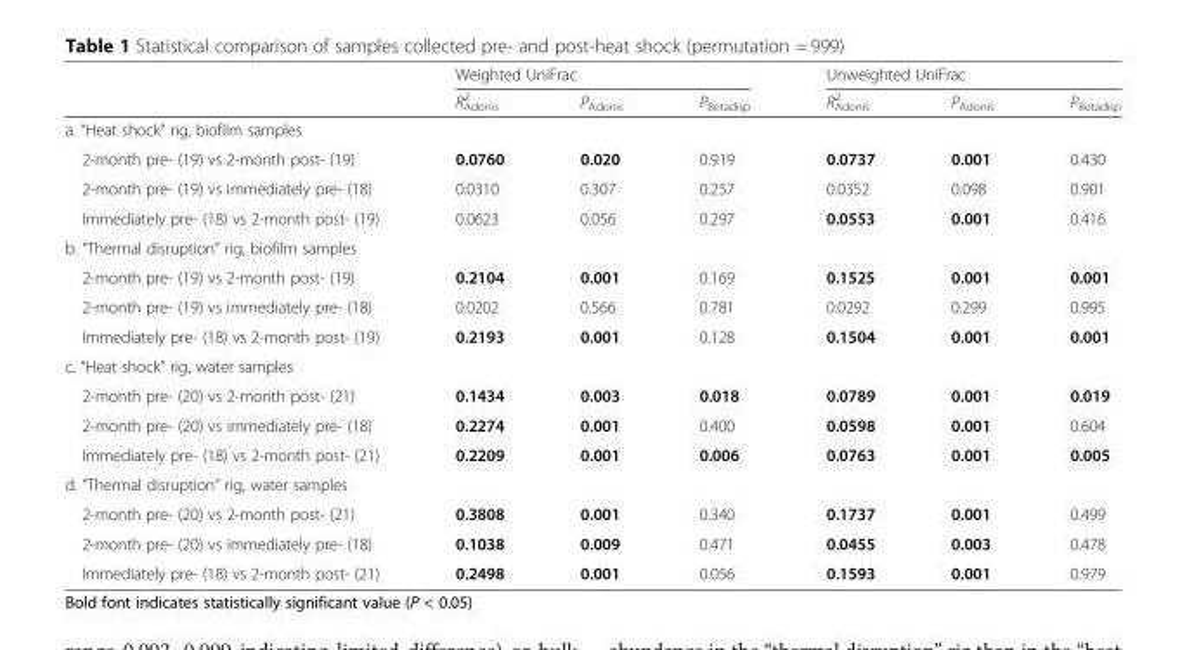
<table><thead><tr><td rowspan="2"></td><td colspan="3">Weighted UniFrac</td><td colspan="3">Unweighted UniFrac</td></tr><tr><td>R<sup>2</sup> <sub>Adonis</sub></td><td>P<sub>Adonis</sub></td><td>P<sub>Betadisp</sub></td><td>R<sup>2</sup> <sub>Adonis</sub></td><td>P<sub>Adonis</sub></td><td>P<sub>Betadisp</sub></td></tr></thead><tbody><tr><td colspan="7">a. “Heat shock” rig, biofilm samples</td></tr><tr><td>2-month pre- (19) vs 2-month post- (19)</td><td>0.0760</td><td>0.020</td><td>0.919</td><td>0.0737</td><td>0.001</td><td>0.430</td></tr><tr><td>2-month pre- (19) vs immediately pre- (18)</td><td>0.0310</td><td>0.307</td><td>0.257</td><td>0.0352</td><td>0.098</td><td>0.901</td></tr><tr><td>Immediately pre- (18) vs 2-month post- (19)</td><td>0.0623</td><td>0.056</td><td>0.297</td><td>0.0553</td><td>0.001</td><td>0.416</td></tr><tr><td colspan="7">b. “Thermal disruption” rig, biofilm samples</td></tr><tr><td>2-month pre- (19) vs 2-month post- (19)</td><td>0.2104</td><td>0.001</td><td>0.169</td><td>0.1525</td><td>0.001</td><td>0.001</td></tr><tr><td>2-month pre- (19) vs immediately pre- (18)</td><td>0.0202</td><td>0.566</td><td>0.781</td><td>0.0292</td><td>0.299</td><td>0.995</td></tr><tr><td>Immediately pre- (18) vs 2-month post- (19)</td><td>0.2193</td><td>0.001</td><td>0.128</td><td>0.1504</td><td>0.001</td><td>0.001</td></tr><tr><td colspan="7">c. “Heat shock” rig, water samples</td></tr><tr><td>2-month pre- (20) vs 2-month post- (21)</td><td>0.1434</td><td>0.003</td><td>0.018</td><td>0.0789</td><td>0.001</td><td>0.019</td></tr><tr><td>2-month pre- (20) vs immediately pre- (18)</td><td>0.2274</td><td>0.001</td><td>0.400</td><td>0.0598</td><td>0.001</td><td>0.604</td></tr><tr><td>Immediately pre- (18) vs 2-month post- (21)</td><td>0.2209</td><td>0.001</td><td>0.006</td><td>0.0763</td><td>0.001</td><td>0.005</td></tr><tr><td colspan="7">d. “Thermal disruption” rig, water samples</td></tr><tr><td>2-month pre- (20) vs 2-month post- (21)</td><td>0.3808</td><td>0.001</td><td>0.340</td><td>0.1737</td><td>0.001</td><td>0.499</td></tr><tr><td>2-month pre- (20) vs immediately pre- (18)</td><td>0.1038</td><td>0.009</td><td>0.471</td><td>0.0455</td><td>0.003</td><td>0.478</td></tr><tr><td>Immediately pre- (18) vs 2-month post- (21)</td><td>0.2498</td><td>0.001</td><td>0.056</td><td>0.1593</td><td>0.001</td><td>0.979</td></tr></tbody></table>